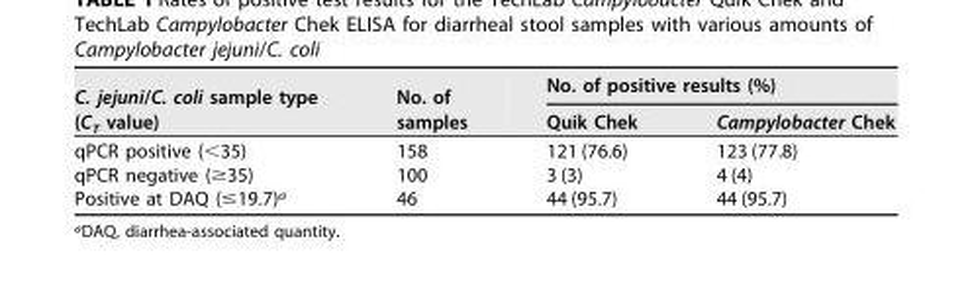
<table><thead><tr><td rowspan="2">C. jejuni/C. coli sample type (C<sub>T</sub> value)</td><td rowspan="2">No. of samples</td><td colspan="2">No. of positive results (%)</td></tr><tr><td>Quik Chek</td><td>Campylobacter Chek</td></tr></thead><tbody><tr><td>qPCR positive (&lt;35)</td><td>158</td><td>121 (76.6)</td><td>123 (77.8)</td></tr><tr><td>qPCR negative (≥35)</td><td>100</td><td>3 (3)</td><td>4 (4)</td></tr><tr><td>Positive at DAQ (≤19.7)<sup>a</sup></td><td>46</td><td>44 (95.7)</td><td>44 (95.7)</td></tr></tbody></table>